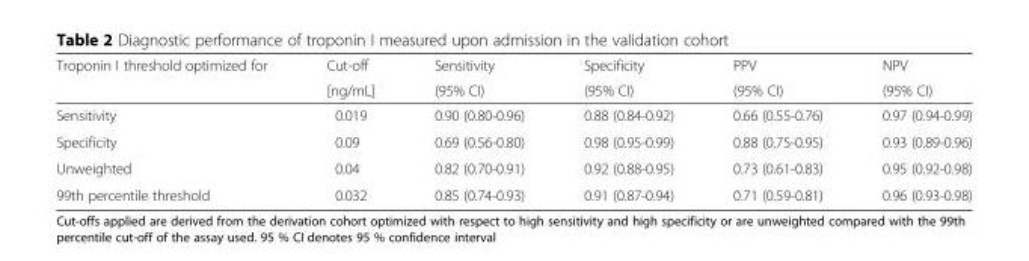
<table><thead><tr><td rowspan="2">Troponin I threshold optimized for</td><td rowspan="2">Cut-off [ng/mL]</td><td rowspan="2">Sensitivity (95% CI)</td><td rowspan="2">Specificity (95% CI)</td><td rowspan="2">PPV (95% CI)</td><td rowspan="2">NPV (95% CI)</td></tr><tr></tr></thead><tbody><tr><td>Sensitivity</td><td>0.019</td><td>0.90 (0.80-0.96)</td><td>0.88 (0.84-0.92)</td><td>0.66 (0.55-0.76)</td><td>0.97 (0.94-0.99)</td></tr><tr><td>Specificity</td><td>0.09</td><td>0.69 (0.56-0.80)</td><td>0.98 (0.95-0.99)</td><td>0.88 (0.75-0.95)</td><td>0.93 (0.89-0.96)</td></tr><tr><td>Unweighted</td><td>0.04</td><td>0.82 (0.70-0.91)</td><td>0.92 (0.88-0.95)</td><td>0.73 (0.61-0.83)</td><td>0.95 (0.92-0.98)</td></tr><tr><td>99th percentile threshold</td><td>0.032</td><td>0.85 (0.74-0.93)</td><td>0.91 (0.87-0.94)</td><td>0.71 (0.59-0.81)</td><td>0.96 (0.93-0.98)</td></tr></tbody></table>